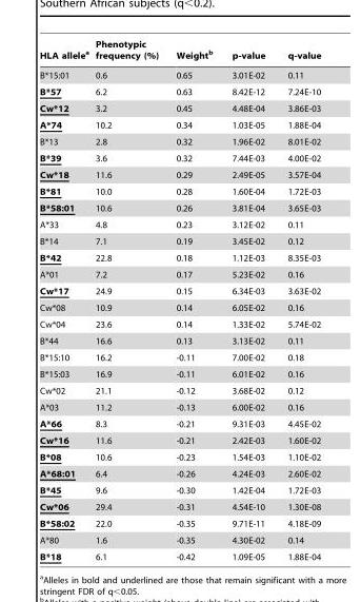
<table><thead><tr><td>HLA allele<sup>a</sup></td><td>Phenotypic frequency (%)</td><td>Weight<sup>b</sup></td><td>p-value</td><td>q-value</td></tr></thead><tbody><tr><td>B*15:01</td><td>0.6</td><td>0.65</td><td>3.01E-02</td><td>0.11</td></tr><tr><td>B*57</td><td>6.2</td><td>0.63</td><td>8.42E-12</td><td>7.24E-10</td></tr><tr><td>Cw*12</td><td>3.2</td><td>0.45</td><td>4.48E-04</td><td>3.86E-03</td></tr><tr><td>A*74</td><td>10.2</td><td>0.34</td><td>1.03E-05</td><td>1.88E-04</td></tr><tr><td>B*13</td><td>2.8</td><td>0.32</td><td>1.96E-02</td><td>8.01E-02</td></tr><tr><td>B*39</td><td>3.6</td><td>0.32</td><td>7.44E-03</td><td>4.00E-02</td></tr><tr><td>Cw*18</td><td>11.6</td><td>0.29</td><td>2.49E-05</td><td>3.57E-04</td></tr><tr><td>B*81</td><td>10.0</td><td>0.28</td><td>1.60E-04</td><td>1.72E-03</td></tr><tr><td>B*58:01</td><td>10.6</td><td>0.26</td><td>3.81E-04</td><td>3.65E-03</td></tr><tr><td>A*33</td><td>4.8</td><td>0.23</td><td>3.12E-02</td><td>0.11</td></tr><tr><td>B*14</td><td>7.1</td><td>0.19</td><td>3.45E-02</td><td>0.12</td></tr><tr><td>B*42</td><td>22.8</td><td>0.18</td><td>1.12E-03</td><td>8.35E-03</td></tr><tr><td>A*01</td><td>7.2</td><td>0.17</td><td>5.23E-02</td><td>0.16</td></tr><tr><td>Cw*17</td><td>24.9</td><td>0.15</td><td>6.34E-03</td><td>3.63E-02</td></tr><tr><td>Cw*08</td><td>10.9</td><td>0.14</td><td>6.05E-02</td><td>0.16</td></tr><tr><td>Cw*04</td><td>23.6</td><td>0.14</td><td>1.33E-02</td><td>5.74E-02</td></tr><tr><td>B*44</td><td>16.6</td><td>0.13</td><td>3.13E-02</td><td>0.11</td></tr><tr><td>B*15:10</td><td>16.2</td><td>-0.11</td><td>7.00E-02</td><td>0.18</td></tr><tr><td>B*15:03</td><td>16.9</td><td>-0.11</td><td>6.01E-02</td><td>0.16</td></tr><tr><td>Cw*02</td><td>21.1</td><td>-0.12</td><td>3.68E-02</td><td>0.12</td></tr><tr><td>A*03</td><td>11.2</td><td>-0.13</td><td>6.00E-02</td><td>0.16</td></tr><tr><td>A*66</td><td>8.3</td><td>-0.21</td><td>9.31E-03</td><td>4.45E-02</td></tr><tr><td>Cw*16</td><td>11.6</td><td>-0.21</td><td>2.42E-03</td><td>1.60E-02</td></tr><tr><td>B*08</td><td>10.6</td><td>-0.23</td><td>1.54E-03</td><td>1.10E-02</td></tr><tr><td>A*68:01</td><td>6.4</td><td>-0.26</td><td>4.24E-03</td><td>2.60E-02</td></tr><tr><td>B*45</td><td>9.6</td><td>-0.30</td><td>1.42E-04</td><td>1.72E-03</td></tr><tr><td>Cw*06</td><td>29.4</td><td>-0.31</td><td>4.54E-10</td><td>1.30E-08</td></tr><tr><td>B*58:02</td><td>22.0</td><td>-0.35</td><td>9.71E-11</td><td>4.18E-09</td></tr><tr><td>A*80</td><td>1.6</td><td>-0.35</td><td>4.30E-02</td><td>0.14</td></tr><tr><td>B*18</td><td>6.1</td><td>-0.42</td><td>1.09E-05</td><td>1.88E-04</td></tr></tbody></table>